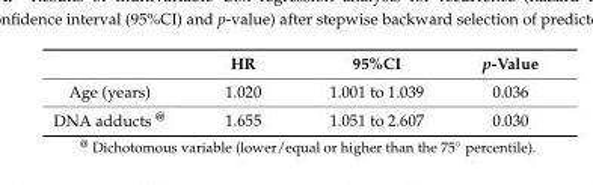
<table><thead><tr><td></td><td>HR</td><td>95%CI</td><td>p-Value</td></tr></thead><tbody><tr><td>Age (years)</td><td>1.020</td><td>1.001 to 1.039</td><td>0.036</td></tr><tr><td>DNA adducts <sup>@</sup></td><td>1.655</td><td>1.051 to 2.607</td><td>0.030</td></tr></tbody></table>